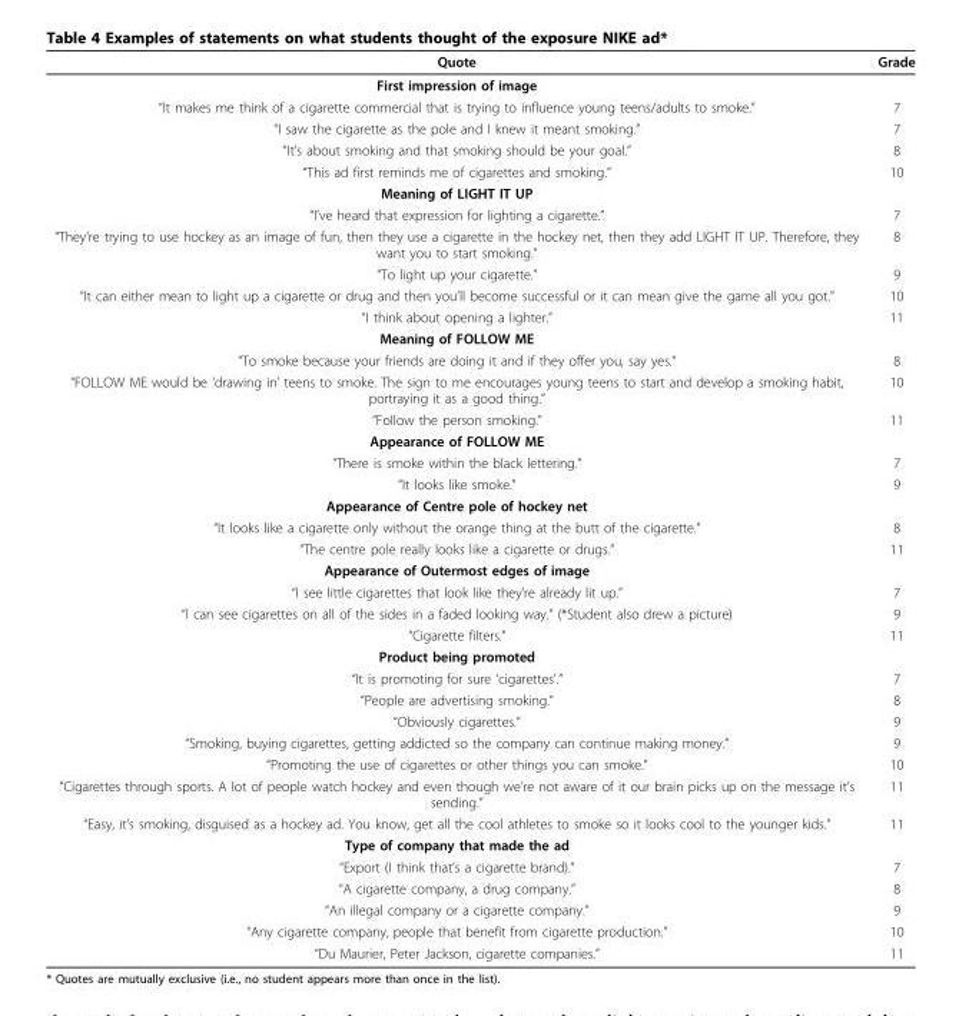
<table><thead><tr><td>Quote</td><td>Grade</td></tr></thead><tbody><tr><td colspan="2">First impression of image</td></tr><tr><td>“It makes me think of a cigarette commercial that is trying to influence young teens/adults to smoke.”</td><td>7</td></tr><tr><td>“I saw the cigarette as the pole and I knew it meant smoking.”</td><td>7</td></tr><tr><td>“It’s about smoking and that smoking should be your goal.”</td><td>8</td></tr><tr><td>“This ad first reminds me of cigarettes and smoking.”</td><td>10</td></tr><tr><td colspan="2">Meaning of LIGHT IT UP</td></tr><tr><td>“I’ve heard that expression for lighting a cigarette.”</td><td>7</td></tr><tr><td>“They’re trying to use hockey as an image of fun, then they use a cigarette in the hockey net, then they add LIGHT IT UP. Therefore, they want you to start smoking.”</td><td>8</td></tr><tr><td>“To light up your cigarette.”</td><td>9</td></tr><tr><td>“It can either mean to light up a cigarette or drug and then you’ll become successful or it can mean give the game all you got.”</td><td>10</td></tr><tr><td>“I think about opening a lighter.”</td><td>11</td></tr><tr><td colspan="2">Meaning of FOLLOW ME</td></tr><tr><td>“To smoke because your friends are doing it and if they offer you, say yes.”</td><td>8</td></tr><tr><td>“FOLLOW ME would be ‘drawing in’ teens to smoke. The sign to me encourages young teens to start and develop a smoking habit, portraying it as a good thing.”</td><td>10</td></tr><tr><td>“Follow the person smoking.”</td><td>11</td></tr><tr><td colspan="2">Appearance of FOLLOW ME</td></tr><tr><td>“There is smoke within the black lettering.”</td><td>7</td></tr><tr><td>“It looks like smoke.”</td><td>9</td></tr><tr><td colspan="2">Appearance of Centre pole of hockey net</td></tr><tr><td>“It looks like a cigarette only without the orange thing at the butt of the cigarette.”</td><td>8</td></tr><tr><td>“The centre pole really looks like a cigarette or drugs.”</td><td>11</td></tr><tr><td colspan="2">Appearance of Outermost edges of image</td></tr><tr><td>“I see little cigarettes that look like they’re already lit up.”</td><td>7</td></tr><tr><td>“I can see cigarettes on all of the sides in a faded looking way.” (*Student also drew a picture)</td><td>9</td></tr><tr><td>“Cigarette filters.”</td><td>11</td></tr><tr><td colspan="2">Product being promoted</td></tr><tr><td>“It is promoting for sure ‘cigarettes’.”</td><td>7</td></tr><tr><td>“People are advertising smoking.”</td><td>8</td></tr><tr><td>“Obviously cigarettes.”</td><td>9</td></tr><tr><td>“Smoking, buying cigarettes, getting addicted so the company can continue making money.”</td><td>9</td></tr><tr><td>“Promoting the use of cigarettes or other things you can smoke.”</td><td>10</td></tr><tr><td>“Cigarettes through sports. A lot of people watch hockey and even though we’re not aware of it our brain picks up on the message it’s sending.”</td><td>11</td></tr><tr><td>“Easy, it’s smoking, disguised as a hockey ad. You know, get all the cool athletes to smoke so it looks cool to the younger kids.”</td><td>11</td></tr><tr><td colspan="2">Type of company that made the ad</td></tr><tr><td>“Export (I think that’s a cigarette brand).”</td><td>7</td></tr><tr><td>“A cigarette company, a drug company.”</td><td>8</td></tr><tr><td>“An illegal company or a cigarette company.”</td><td>9</td></tr><tr><td>“Any cigarette company, people that benefit from cigarette production.”</td><td>10</td></tr><tr><td>“Du Maurier, Peter Jackson, cigarette companies.”</td><td>11</td></tr></tbody></table>